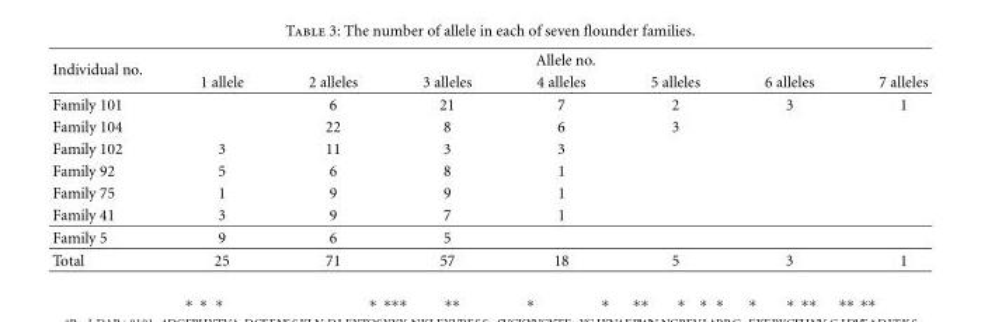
<table><thead><tr><td rowspan="2">Individual no.</td><td colspan="7">Allele no.</td></tr><tr><td>1 allele</td><td>2 alleles</td><td>3 alleles</td><td>4 alleles</td><td>5 alleles</td><td>6 alleles</td><td>7 alleles</td></tr></thead><tbody><tr><td>Family 101</td><td></td><td>6</td><td>21</td><td>7</td><td>2</td><td>3</td><td>1</td></tr><tr><td>Family 104</td><td></td><td>22</td><td>8</td><td>6</td><td>3</td><td></td><td></td></tr><tr><td>Family 102</td><td>3</td><td>11</td><td>3</td><td>3</td><td></td><td></td><td></td></tr><tr><td>Family 92</td><td>5</td><td>6</td><td>8</td><td>1</td><td></td><td></td><td></td></tr><tr><td>Family 75</td><td>1</td><td>9</td><td>9</td><td>1</td><td></td><td></td><td></td></tr><tr><td>Family 41</td><td>3</td><td>9</td><td>7</td><td>1</td><td></td><td></td><td></td></tr><tr><td>Family 5</td><td>9</td><td>6</td><td>5</td><td></td><td></td><td></td><td></td></tr><tr><td>Total</td><td>25</td><td>71</td><td>57</td><td>18</td><td>5</td><td>3</td><td>1</td></tr></tbody></table>